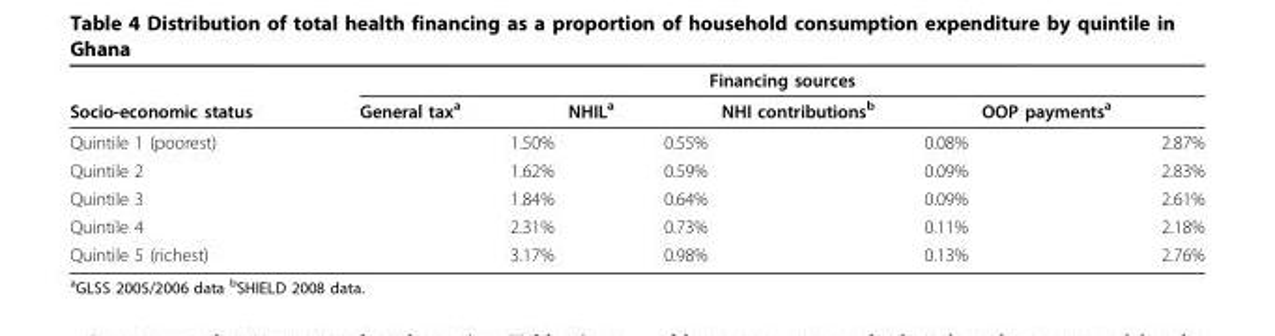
<table><thead><tr><td rowspan="2">Socio-economic status</td><td colspan="4">Financing sources</td></tr><tr><td>General tax<sup>a</sup></td><td>NHIL<sup>a</sup></td><td>NHI contributions<sup>b</sup></td><td>OOP payments<sup>a</sup></td></tr></thead><tbody><tr><td>Quintile 1 (poorest)</td><td>1.50%</td><td>0.55%</td><td>0.08%</td><td>2.87%</td></tr><tr><td>Quintile 2</td><td>1.62%</td><td>0.59%</td><td>0.09%</td><td>2.83%</td></tr><tr><td>Quintile 3</td><td>1.84%</td><td>0.64%</td><td>0.09%</td><td>2.61%</td></tr><tr><td>Quintile 4</td><td>2.31%</td><td>0.73%</td><td>0.11%</td><td>2.18%</td></tr><tr><td>Quintile 5 (richest)</td><td>3.17%</td><td>0.98%</td><td>0.13%</td><td>2.76%</td></tr></tbody></table>